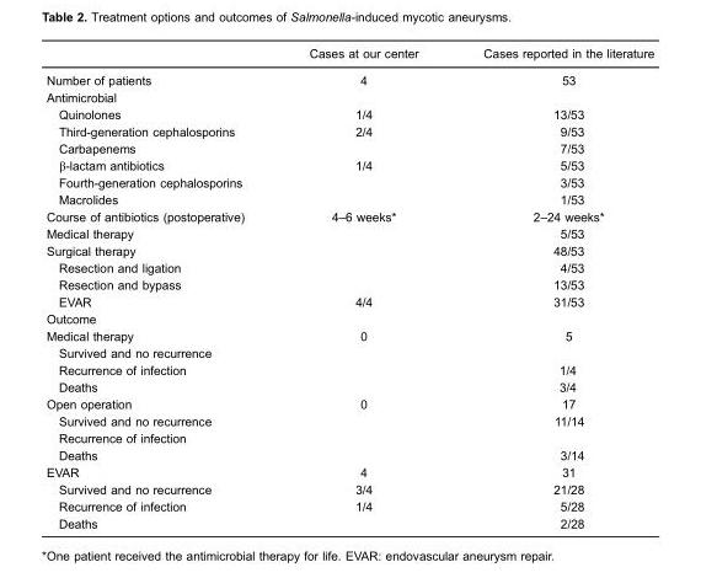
<table><thead><tr><td></td><td>Cases at our center</td><td>Cases reported in the literature</td></tr></thead><tbody><tr><td>Number of patients</td><td>4</td><td>53</td></tr><tr><td colspan="3">Antimicrobial</td></tr><tr><td>Quinolones</td><td>1/4</td><td>13/53</td></tr><tr><td>Third-generation cephalosporins</td><td>2/4</td><td>9/53</td></tr><tr><td>Carbapenems</td><td></td><td>7/53</td></tr><tr><td>β-lactam antibiotics</td><td>1/4</td><td>5/53</td></tr><tr><td>Fourth-generation cephalosporins</td><td></td><td>3/53</td></tr><tr><td>Macrolides</td><td></td><td>1/53</td></tr><tr><td>Course of antibiotics (postoperative)</td><td>4–6 weeks*</td><td>2–24 weeks*</td></tr><tr><td>Medical therapy</td><td></td><td>5/53</td></tr><tr><td>Surgical therapy</td><td></td><td>48/53</td></tr><tr><td>Resection and ligation</td><td></td><td>4/53</td></tr><tr><td>Resection and bypass</td><td></td><td>13/53</td></tr><tr><td>EVAR</td><td>4/4</td><td>31/53</td></tr><tr><td colspan="3">Outcome</td></tr><tr><td>Medical therapy</td><td>0</td><td>5</td></tr><tr><td colspan="3">Survived and no recurrence</td></tr><tr><td>Recurrence of infection</td><td></td><td>1/4</td></tr><tr><td>Deaths</td><td></td><td>3/4</td></tr><tr><td>Open operation</td><td>0</td><td>17</td></tr><tr><td>Survived and no recurrence</td><td></td><td>11/14</td></tr><tr><td colspan="3">Recurrence of infection</td></tr><tr><td>Deaths</td><td></td><td>3/14</td></tr><tr><td>EVAR</td><td>4</td><td>31</td></tr><tr><td>Survived and no recurrence</td><td>3/4</td><td>21/28</td></tr><tr><td>Recurrence of infection</td><td>1/4</td><td>5/28</td></tr><tr><td>Deaths</td><td></td><td>2/28</td></tr></tbody></table>